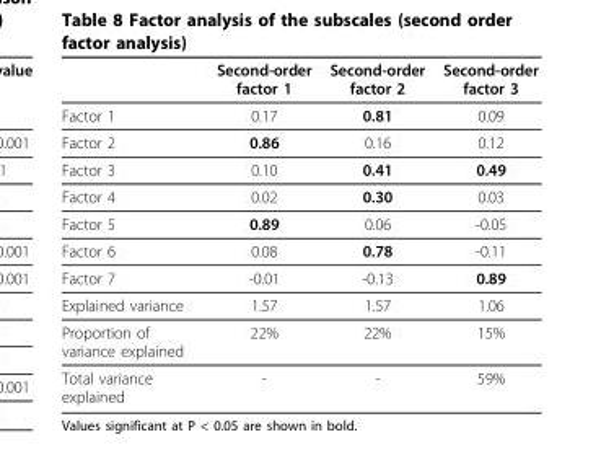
<table><thead><tr><td></td><td>Second-order factor 1</td><td>Second-order factor 2</td><td>Second-order factor 3</td></tr></thead><tbody><tr><td>Factor 1</td><td>0.17</td><td>0.81</td><td>0.09</td></tr><tr><td>Factor 2</td><td>0.86</td><td>0.16</td><td>0.12</td></tr><tr><td>Factor 3</td><td>0.10</td><td>0.41</td><td>0.49</td></tr><tr><td>Factor 4</td><td>0.02</td><td>0.30</td><td>0.03</td></tr><tr><td>Factor 5</td><td>0.89</td><td>0.06</td><td>-0.05</td></tr><tr><td>Factor 6</td><td>0.08</td><td>0.78</td><td>-0.11</td></tr><tr><td>Factor 7</td><td>-0.01</td><td>-0.13</td><td>0.89</td></tr><tr><td>Explained variance</td><td>1.57</td><td>1.57</td><td>1.06</td></tr><tr><td>Proportion of variance explained</td><td>22%</td><td>22%</td><td>15%</td></tr><tr><td>Total variance explained</td><td>-</td><td>-</td><td>59%</td></tr></tbody></table>